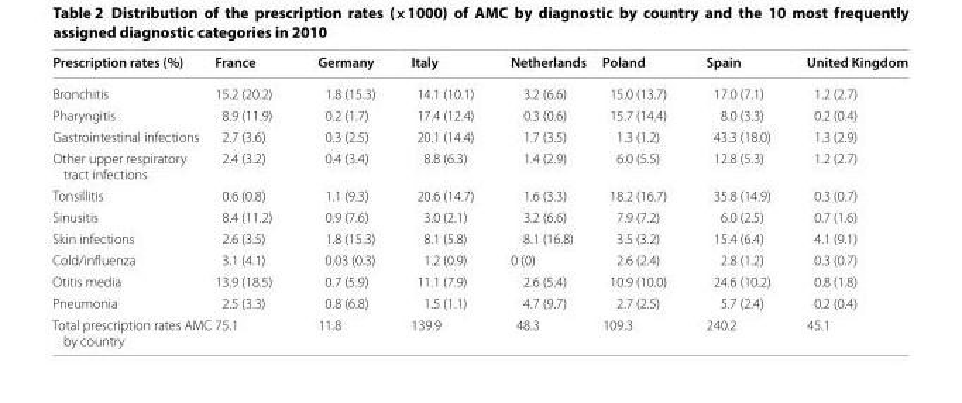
<table><thead><tr><td>Prescription rates (%)</td><td>France</td><td>Germany</td><td>Italy</td><td>Netherlands</td><td>Poland</td><td>Spain</td><td>United Kingdom</td></tr></thead><tbody><tr><td>Bronchitis</td><td>15.2 (20.2)</td><td>1.8 (15.3)</td><td>14.1 (10.1)</td><td>3.2 (6.6)</td><td>15.0 (13.7)</td><td>17.0 (7.1)</td><td>1.2 (2.7)</td></tr><tr><td>Pharyngitis</td><td>8.9 (11.9)</td><td>0.2 (1.7)</td><td>17.4 (12.4)</td><td>0.3 (0.6)</td><td>15.7 (14.4)</td><td>8.0 (3.3)</td><td>0.2 (0.4)</td></tr><tr><td>Gastrointestinal infections</td><td>2.7 (3.6)</td><td>0.3 (2.5)</td><td>20.1 (14.4)</td><td>1.7 (3.5)</td><td>1.3 (1.2)</td><td>43.3 (18.0)</td><td>1.3 (2.9)</td></tr><tr><td>Other upper respiratory tract infections</td><td>2.4 (3.2)</td><td>0.4 (3.4)</td><td>8.8 (6.3)</td><td>1.4 (2.9)</td><td>6.0 (5.5)</td><td>12.8 (5.3)</td><td>1.2 (2.7)</td></tr><tr><td>Tonsillitis</td><td>0.6 (0.8)</td><td>1.1 (9.3)</td><td>20.6 (14.7)</td><td>1.6 (3.3)</td><td>18.2 (16.7)</td><td>35.8 (14.9)</td><td>0.3 (0.7)</td></tr><tr><td>Sinusitis</td><td>8.4 (11.2)</td><td>0.9 (7.6)</td><td>3.0 (2.1)</td><td>3.2 (6.6)</td><td>7.9 (7.2)</td><td>6.0 (2.5)</td><td>0.7 (1.6)</td></tr><tr><td>Skin infections</td><td>2.6 (3.5)</td><td>1.8 (15.3)</td><td>8.1 (5.8)</td><td>8.1 (16.8)</td><td>3.5 (3.2)</td><td>15.4 (6.4)</td><td>4.1 (9.1)</td></tr><tr><td>Cold/influenza</td><td>3.1 (4.1)</td><td>0.03 (0.3)</td><td>1.2 (0.9)</td><td>0 (0)</td><td>2.6 (2.4)</td><td>2.8 (1.2)</td><td>0.3 (0.7)</td></tr><tr><td>Otitis media</td><td>13.9 (18.5)</td><td>0.7 (5.9)</td><td>11.1 (7.9)</td><td>2.6 (5.4)</td><td>10.9 (10.0)</td><td>24.6 (10.2)</td><td>0.8 (1.8)</td></tr><tr><td>Pneumonia</td><td>2.5 (3.3)</td><td>0.8 (6.8)</td><td>1.5 (1.1)</td><td>4.7 (9.7)</td><td>2.7 (2.5)</td><td>5.7 (2.4)</td><td>0.2 (0.4)</td></tr><tr><td>Total prescription rates AMC by country</td><td>75.1</td><td>11.8</td><td>139.9</td><td>48.3</td><td>109.3</td><td>240.2</td><td>45.1</td></tr></tbody></table>